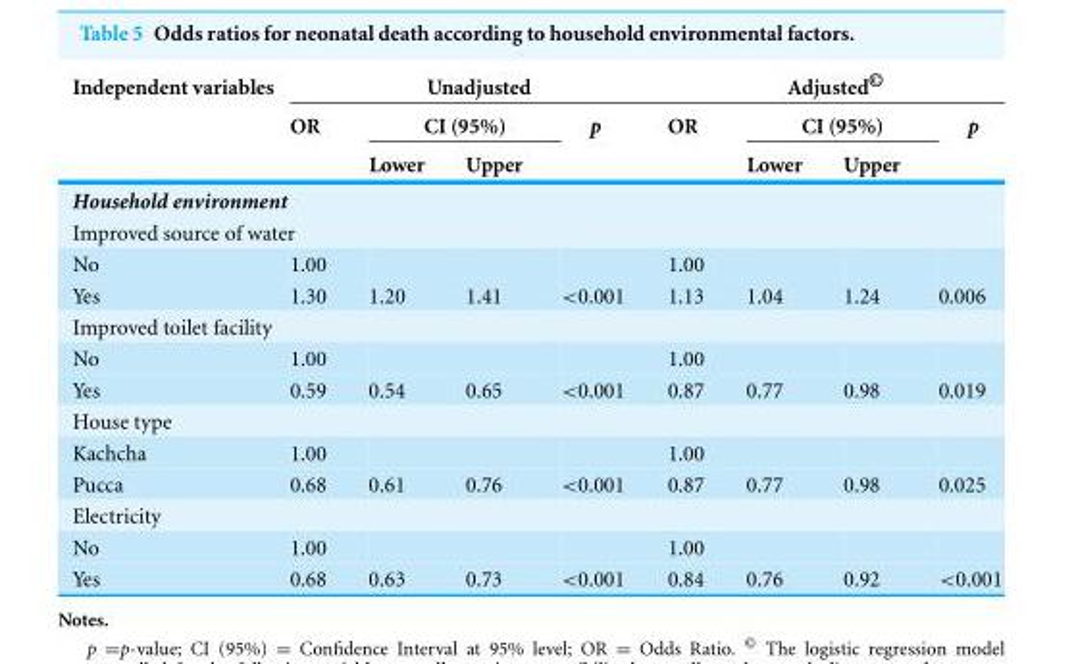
<table><thead><tr><td rowspan="3">Independent variables</td><td colspan="4">Unadjusted</td><td colspan="4">Adjusted<sup>©</sup></td></tr><tr><td rowspan="2">OR</td><td colspan="2">CI (95%)</td><td rowspan="2">p</td><td rowspan="2">OR</td><td colspan="2">CI (95%)</td><td rowspan="2">p</td></tr><tr><td>Lower</td><td>Upper</td><td>Lower</td><td>Upper</td></tr></thead><tbody><tr><td colspan="9">Household environment</td></tr><tr><td colspan="9">Improved source of water</td></tr><tr><td>No</td><td>1.00</td><td></td><td></td><td></td><td>1.00</td><td></td><td></td><td></td></tr><tr><td>Yes</td><td>1.30</td><td>1.20</td><td>1.41</td><td>&lt;0.001</td><td>1.13</td><td>1.04</td><td>1.24</td><td>0.006</td></tr><tr><td colspan="9">Improved toilet facility</td></tr><tr><td>No</td><td>1.00</td><td></td><td></td><td></td><td>1.00</td><td></td><td></td><td></td></tr><tr><td>Yes</td><td>0.59</td><td>0.54</td><td>0.65</td><td>&lt;0.001</td><td>0.87</td><td>0.77</td><td>0.98</td><td>0.019</td></tr><tr><td colspan="9">House type</td></tr><tr><td>Kachcha</td><td>1.00</td><td></td><td></td><td></td><td>1.00</td><td></td><td></td><td></td></tr><tr><td>Pucca</td><td>0.68</td><td>0.61</td><td>0.76</td><td>&lt;0.001</td><td>0.87</td><td>0.77</td><td>0.98</td><td>0.025</td></tr><tr><td colspan="9">Electricity</td></tr><tr><td>No</td><td>1.00</td><td></td><td></td><td></td><td>1.00</td><td></td><td></td><td></td></tr><tr><td>Yes</td><td>0.68</td><td>0.63</td><td>0.73</td><td>&lt;0.001</td><td>0.84</td><td>0.76</td><td>0.92</td><td>&lt;0.001</td></tr></tbody></table>